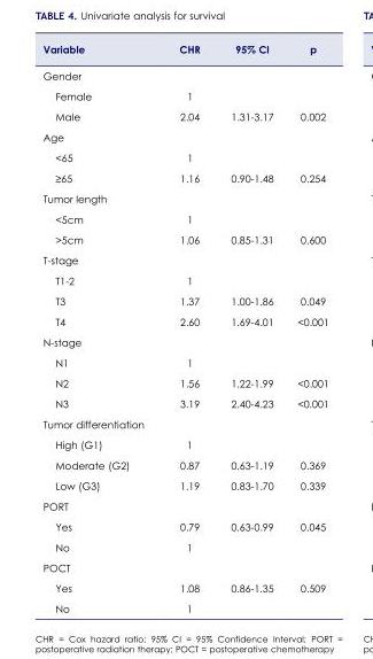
<table><thead><tr><td>Variable</td><td>CHR</td><td>95% CI</td><td>p</td></tr></thead><tbody><tr><td colspan="4">Gender</td></tr><tr><td>Female</td><td>1</td><td></td><td></td></tr><tr><td>Male</td><td>2.04</td><td>1.31-3.17</td><td>0.002</td></tr><tr><td colspan="4">Age</td></tr><tr><td>&lt;65</td><td>1</td><td></td><td></td></tr><tr><td>≥65</td><td>1.16</td><td>0.90-1.48</td><td>0.254</td></tr><tr><td colspan="4">Tumor length</td></tr><tr><td>&lt;5cm</td><td>1</td><td></td><td></td></tr><tr><td>&gt;5cm</td><td>1.06</td><td>0.85-1.31</td><td>0.600</td></tr><tr><td colspan="4">T-stage</td></tr><tr><td>T1-2</td><td>1</td><td></td><td></td></tr><tr><td>T3</td><td>1.37</td><td>1.00-1.86</td><td>0.049</td></tr><tr><td>T4</td><td>2.60</td><td>1.69-4.01</td><td>&lt;0.001</td></tr><tr><td colspan="4">N-stage</td></tr><tr><td>N1</td><td>1</td><td></td><td></td></tr><tr><td>N2</td><td>1.56</td><td>1.22-1.99</td><td>&lt;0.001</td></tr><tr><td>N3</td><td>3.19</td><td>2.40-4.23</td><td>&lt;0.001</td></tr><tr><td colspan="4">Tumor differentiation</td></tr><tr><td>High (G1)</td><td>1</td><td></td><td></td></tr><tr><td>Moderate (G2)</td><td>0.87</td><td>0.63-1.19</td><td>0.369</td></tr><tr><td>Low (G3)</td><td>1.19</td><td>0.83-1.70</td><td>0.339</td></tr><tr><td colspan="4">PORT</td></tr><tr><td>Yes</td><td>0.79</td><td>0.63-0.99</td><td>0.045</td></tr><tr><td>No</td><td>1</td><td></td><td></td></tr><tr><td colspan="4">POCT</td></tr><tr><td>Yes</td><td>1.08</td><td>0.86-1.35</td><td>0.509</td></tr><tr><td>No</td><td>1</td><td></td><td></td></tr></tbody></table>